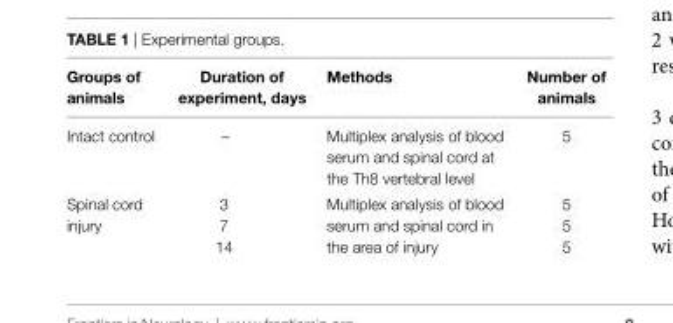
<table><thead><tr><td>groups of animals</td><td>Duration of experiment, days</td><td>Methods</td><td>number of animals</td></tr></thead><tbody><tr><td>Intact control</td><td>–</td><td>Multiplex analysis of blood serum and spinal cord at the Th8 vertebral level</td><td>5</td></tr><tr><td rowspan="3">Spinal cord injury</td><td>3</td><td rowspan="3">Multiplex analysis of blood serum and spinal cord in the area of injury</td><td>5</td></tr><tr><td>7</td><td>5</td></tr><tr><td>14</td><td>5</td></tr></tbody></table>